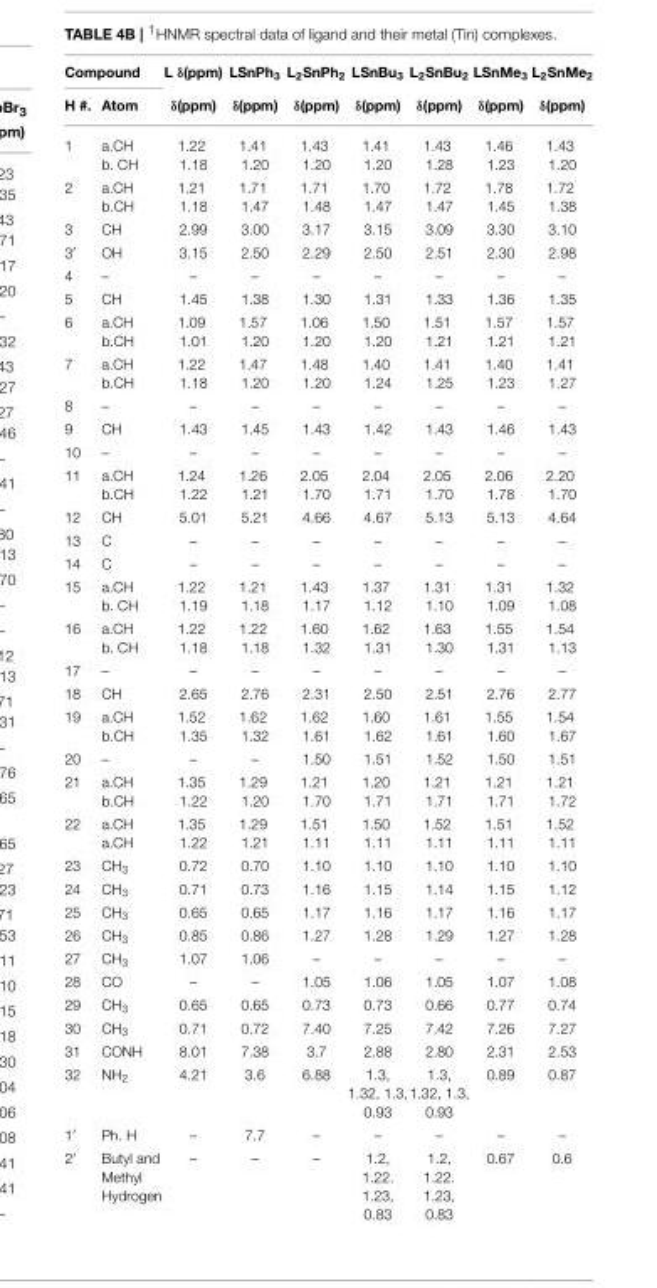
<table><thead><tr><td colspan="2">Compound</td><td rowspan="2">L δ(ppm) δ(ppm)</td><td rowspan="2">LSnPh<sub>3</sub> δ(ppm)</td><td rowspan="2">L<sub>2</sub>SnPh<sub>2</sub> δ(ppm)</td><td rowspan="2">LSnBu<sub>3</sub> δ(ppm)</td><td rowspan="2">L<sub>2</sub>SnBu<sub>2</sub> δ(ppm)</td><td rowspan="2">LSnMe<sub>3</sub> δ(ppm)</td><td rowspan="2">L<sub>2</sub>SnMe<sub>2</sub> δ(ppm)</td></tr><tr><td>H #.</td><td>Atom</td></tr></thead><tbody><tr><td>1</td><td>a.CH b. CH</td><td>1.22 1.18</td><td>1.41 1.20</td><td>1.43 1.20</td><td>1.41 1.20</td><td>1.43 1.28</td><td>1.46 1.23</td><td>1.43 1.20</td></tr><tr><td>2</td><td>a.CH b.CH</td><td>1.21 1.18</td><td>1.71 1.47</td><td>1.71 1.48</td><td>1.70 1.47</td><td>1.72 1.47</td><td>1.78 1.45</td><td>1.72 1.38</td></tr><tr><td>3</td><td>CH</td><td>2.99</td><td>3.00</td><td>3.17</td><td>3.15</td><td>3.09</td><td>3.30</td><td>3.10</td></tr><tr><td>3′</td><td>OH</td><td>3.15</td><td>2.50</td><td>2.29</td><td>2.50</td><td>2.51</td><td>2.30</td><td>2.98</td></tr><tr><td>4</td><td>–</td><td>–</td><td>–</td><td>–</td><td>–</td><td>–</td><td>–</td><td>–</td></tr><tr><td>5</td><td>CH</td><td>1.45</td><td>1.38</td><td>1.30</td><td>1.31</td><td>1.33</td><td>1.36</td><td>1.35</td></tr><tr><td>6</td><td>a.CH b.CH</td><td>1.09 1.01</td><td>1.57 1.20</td><td>1.06 1.20</td><td>1.50 1.20</td><td>1.51 1.21</td><td>1.57 1.21</td><td>1.57 1.21</td></tr><tr><td>7</td><td>a.CH b.CH</td><td>1.22 1.18</td><td>1.47 1.20</td><td>1.48 1.20</td><td>1.40 1.24</td><td>1.41 1.25</td><td>1.40 1.23</td><td>1.41 1.27</td></tr><tr><td>8</td><td>–</td><td>–</td><td>–</td><td>–</td><td>–</td><td>–</td><td>–</td><td>–</td></tr><tr><td>9</td><td>CH</td><td>1.43</td><td>1.45</td><td>1.43</td><td>1.42</td><td>1.43</td><td>1.46</td><td>1.43</td></tr><tr><td>10</td><td>–</td><td>–</td><td>–</td><td>–</td><td>–</td><td>–</td><td>–</td><td>–</td></tr><tr><td>11</td><td>a.CH b.CH</td><td>1.24 1.22</td><td>1.26 1.21</td><td>2.05 1.70</td><td>2.04 1.71</td><td>2.05 1.70</td><td>2.06 1.78</td><td>2.20 1.70</td></tr><tr><td>12</td><td>CH</td><td>5.01</td><td>5.21</td><td>4.66</td><td>4.67</td><td>5.13</td><td>5.13</td><td>4.64</td></tr><tr><td>13</td><td>C</td><td>–</td><td>–</td><td>–</td><td>–</td><td>–</td><td>–</td><td>–</td></tr><tr><td>14</td><td>C</td><td>–</td><td>–</td><td>–</td><td>–</td><td>–</td><td>–</td><td>–</td></tr><tr><td>15</td><td>a.CH b. CH</td><td>1.22 1.19</td><td>1.21 1.18</td><td>1.43 1.17</td><td>1.37 1.12</td><td>1.31 1.10</td><td>1.31 1.09</td><td>1.32 1.08</td></tr><tr><td>16</td><td>a.CH b. CH</td><td>1.22 1.18</td><td>1.22 1.18</td><td>1.60 1.32</td><td>1.62 1.31</td><td>1.63 1.30</td><td>1.55 1.31</td><td>1.54 1.13</td></tr><tr><td>17</td><td>–</td><td>–</td><td>–</td><td>–</td><td>–</td><td>–</td><td>–</td><td>–</td></tr><tr><td>18</td><td>CH</td><td>2.65</td><td>2.76</td><td>2.31</td><td>2.50</td><td>2.51</td><td>2.76</td><td>2.77</td></tr><tr><td>19</td><td>a.CH b.CH</td><td>1.52 1.35</td><td>1.62 1.32</td><td>1.62 1.61</td><td>1.60 1.62</td><td>1.61 1.61</td><td>1.55 1.60</td><td>1.54 1.67</td></tr><tr><td>20</td><td>–</td><td>–</td><td>–</td><td>1.50</td><td>1.51</td><td>1.52</td><td>1.50</td><td>1.51</td></tr><tr><td>21</td><td>a.CH b.CH</td><td>1.35 1.22</td><td>1.29 1.20</td><td>1.21 1.70</td><td>1.20 1.71</td><td>1.21 1.71</td><td>1.21 1.71</td><td>1.21 1.72</td></tr><tr><td>22</td><td>a.CH a.CH</td><td>1.35 1.22</td><td>1.29 1.21</td><td>1.51 1.11</td><td>1.50 1.11</td><td>1.52 1.11</td><td>1.51 1.11</td><td>1.52 1.11</td></tr><tr><td>23</td><td>CH<sub>3</sub></td><td>0.72</td><td>0.70</td><td>1.10</td><td>1.10</td><td>1.10</td><td>1.10</td><td>1.10</td></tr><tr><td>24</td><td>CH<sub>3</sub></td><td>0.71</td><td>0.73</td><td>1.16</td><td>1.15</td><td>1.14</td><td>1.15</td><td>1.12</td></tr><tr><td>25</td><td>CH<sub>3</sub></td><td>0.65</td><td>0.65</td><td>1.17</td><td>1.16</td><td>1.17</td><td>1.16</td><td>1.17</td></tr><tr><td>26</td><td>CH<sub>3</sub></td><td>0.85</td><td>0.86</td><td>1.27</td><td>1.28</td><td>1.29</td><td>1.27</td><td>1.28</td></tr><tr><td>27</td><td>CH<sub>3</sub></td><td>1.07</td><td>1.06</td><td>–</td><td>–</td><td>–</td><td>–</td><td>–</td></tr><tr><td>28</td><td>CO</td><td>–</td><td>–</td><td>1.05</td><td>1.06</td><td>1.05</td><td>1.07</td><td>1.08</td></tr><tr><td>29</td><td>CH<sub>3</sub></td><td>0.65</td><td>0.65</td><td>0.73</td><td>0.73</td><td>0.66</td><td>0.77</td><td>0.74</td></tr><tr><td>30</td><td>CH<sub>3</sub></td><td>0.71</td><td>0.72</td><td>7.40</td><td>7.25</td><td>7.42</td><td>7.26</td><td>7.27</td></tr><tr><td>31</td><td>CONH</td><td>8.01</td><td>7.38</td><td>3.7</td><td>2.88</td><td>2.80</td><td>2.31</td><td>2.53</td></tr><tr><td>32</td><td>NH<sub>2</sub></td><td>4.21</td><td>3.6</td><td>6.88</td><td>1.3, 1.32, 1.3, 0.93</td><td>1.3, 1.32, 1.3, 0.93</td><td>0.89</td><td>0.87</td></tr><tr><td>1′</td><td>Ph. H</td><td>–</td><td>7.7</td><td>–</td><td>–</td><td>–</td><td>–</td><td>–</td></tr><tr><td>2′</td><td>Butyl and Methyl Hydrogen</td><td>–</td><td>–</td><td>–</td><td>1.2, 1.22. 1.23, 0.83</td><td>1.2, 1.22. 1.23, 0.83</td><td>0.67</td><td>0.6</td></tr></tbody></table>